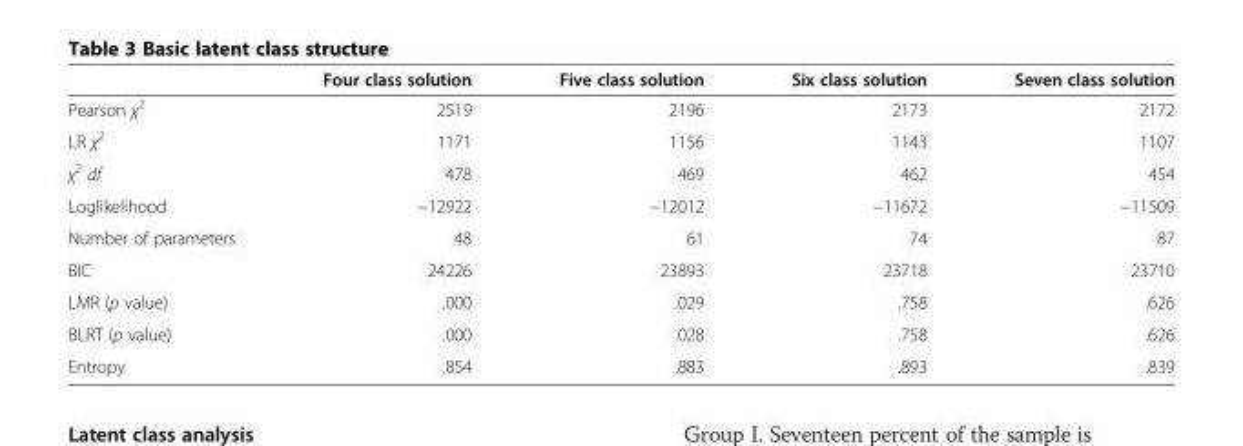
<table><thead><tr><td></td><td>Four class solution</td><td>Five class solution</td><td>Six class solution</td><td>Seven class solution</td></tr></thead><tbody><tr><td>Pearson χ<sup>2</sup></td><td>2519</td><td>2196</td><td>2173</td><td>2172</td></tr><tr><td>LR χ<sup>2</sup></td><td>1171</td><td>1156</td><td>1143</td><td>1107</td></tr><tr><td>χ<sup>2</sup> df</td><td>478</td><td>469</td><td>462</td><td>454</td></tr><tr><td>Loglikelihood</td><td>−12922</td><td>−12012</td><td>−11672</td><td>−11509</td></tr><tr><td>Number of parameters</td><td>48</td><td>61</td><td>74</td><td>87</td></tr><tr><td>BIC</td><td>24226</td><td>23893</td><td>23718</td><td>23710</td></tr><tr><td>LMR (p value)</td><td>.000</td><td>.029</td><td>.758</td><td>.626</td></tr><tr><td>BLRT (p value)</td><td>.000</td><td>.028</td><td>.758</td><td>.626</td></tr><tr><td>Entropy</td><td>.854</td><td>.883</td><td>.893</td><td>.839</td></tr></tbody></table>